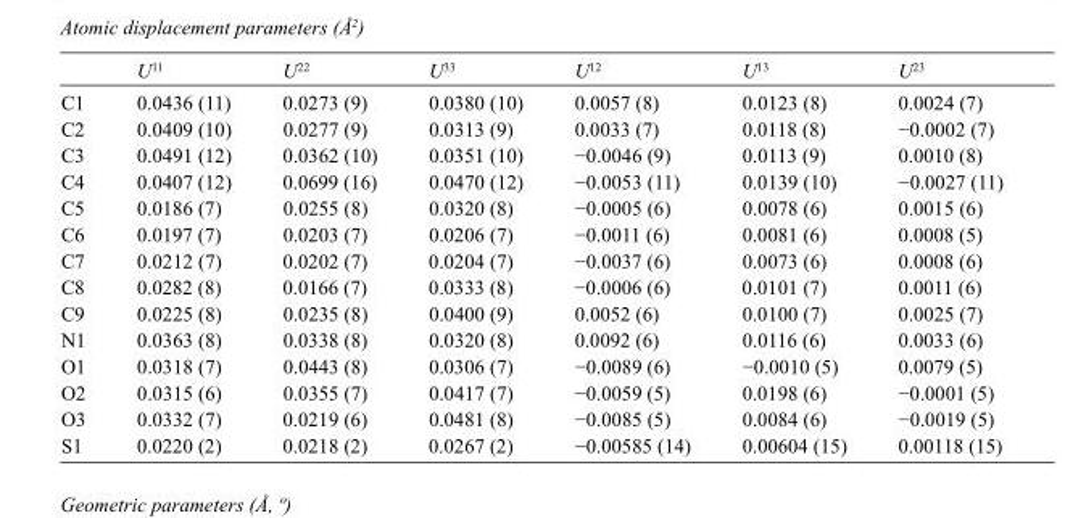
<table><thead><tr><td></td><td>U<sup>11</sup></td><td>U<sup>22</sup></td><td>U<sup>33</sup></td><td>U<sup>12</sup></td><td>U<sup>13</sup></td><td>U<sup>23</sup></td></tr></thead><tbody><tr><td>C1</td><td>0.0436 (11)</td><td>0.0273 (9)</td><td>0.0380 (10)</td><td>0.0057 (8)</td><td>0.0123 (8)</td><td>0.0024 (7)</td></tr><tr><td>C2</td><td>0.0409 (10)</td><td>0.0277 (9)</td><td>0.0313 (9)</td><td>0.0033 (7)</td><td>0.0118 (8)</td><td>−0.0002 (7)</td></tr><tr><td>C3</td><td>0.0491 (12)</td><td>0.0362 (10)</td><td>0.0351 (10)</td><td>−0.0046 (9)</td><td>0.0113 (9)</td><td>0.0010 (8)</td></tr><tr><td>C4</td><td>0.0407 (12)</td><td>0.0699 (16)</td><td>0.0470 (12)</td><td>−0.0053 (11)</td><td>0.0139 (10)</td><td>−0.0027 (11)</td></tr><tr><td>C5</td><td>0.0186 (7)</td><td>0.0255 (8)</td><td>0.0320 (8)</td><td>−0.0005 (6)</td><td>0.0078 (6)</td><td>0.0015 (6)</td></tr><tr><td>C6</td><td>0.0197 (7)</td><td>0.0203 (7)</td><td>0.0206 (7)</td><td>−0.0011 (6)</td><td>0.0081 (6)</td><td>0.0008 (5)</td></tr><tr><td>C7</td><td>0.0212 (7)</td><td>0.0202 (7)</td><td>0.0204 (7)</td><td>−0.0037 (6)</td><td>0.0073 (6)</td><td>0.0008 (6)</td></tr><tr><td>C8</td><td>0.0282 (8)</td><td>0.0166 (7)</td><td>0.0333 (8)</td><td>−0.0006 (6)</td><td>0.0101 (7)</td><td>0.0011 (6)</td></tr><tr><td>C9</td><td>0.0225 (8)</td><td>0.0235 (8)</td><td>0.0400 (9)</td><td>0.0052 (6)</td><td>0.0100 (7)</td><td>0.0025 (7)</td></tr><tr><td>N1</td><td>0.0363 (8)</td><td>0.0338 (8)</td><td>0.0320 (8)</td><td>0.0092 (6)</td><td>0.0116 (6)</td><td>0.0033 (6)</td></tr><tr><td>O1</td><td>0.0318 (7)</td><td>0.0443 (8)</td><td>0.0306 (7)</td><td>−0.0089 (6)</td><td>−0.0010 (5)</td><td>0.0079 (5)</td></tr><tr><td>O2</td><td>0.0315 (6)</td><td>0.0355 (7)</td><td>0.0417 (7)</td><td>−0.0059 (5)</td><td>0.0198 (6)</td><td>−0.0001 (5)</td></tr><tr><td>O3</td><td>0.0332 (7)</td><td>0.0219 (6)</td><td>0.0481 (8)</td><td>−0.0085 (5)</td><td>0.0084 (6)</td><td>−0.0019 (5)</td></tr><tr><td>S1</td><td>0.0220 (2)</td><td>0.0218 (2)</td><td>0.0267 (2)</td><td>−0.00585 (14)</td><td>0.00604 (15)</td><td>0.00118 (15)</td></tr></tbody></table>